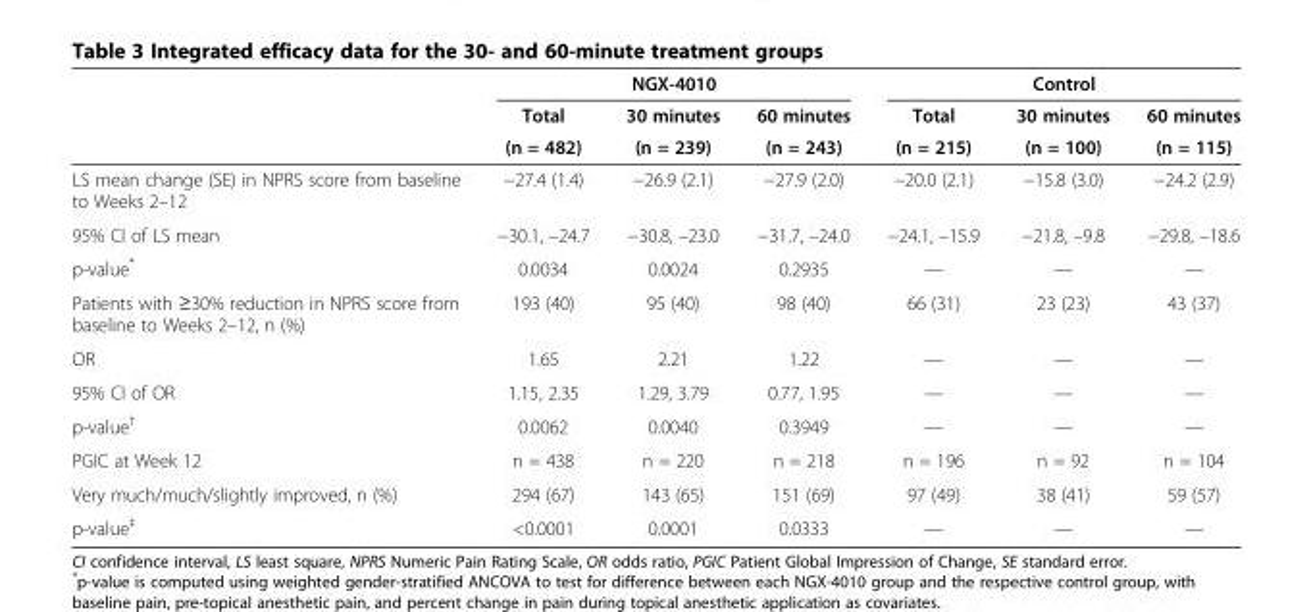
<table><thead><tr><td rowspan="3"></td><td colspan="3">NGX-4010</td><td colspan="3">Control</td></tr><tr><td rowspan="2">Total (n = 482)</td><td rowspan="2">30 minutes (n = 239)</td><td rowspan="2">60 minutes (n = 243)</td><td rowspan="2">Total (n = 215)</td><td rowspan="2">30 minutes (n = 100)</td><td rowspan="2">60 minutes (n = 115)</td></tr><tr></tr></thead><tbody><tr><td>LS mean change (SE) in NPRS score from baseline to Weeks 2–12</td><td>−27.4 (1.4)</td><td>−26.9 (2.1)</td><td>−27.9 (2.0)</td><td>−20.0 (2.1)</td><td>−15.8 (3.0)</td><td>−24.2 (2.9)</td></tr><tr><td>95% CI of LS mean</td><td>−30.1, –24.7</td><td>−30.8, –23.0</td><td>−31.7, –24.0</td><td>−24.1, –15.9</td><td>−21.8, –9.8</td><td>−29.8, –18.6</td></tr><tr><td>p-value*</td><td>0.0034</td><td>0.0024</td><td>0.2935</td><td>—</td><td>—</td><td>—</td></tr><tr><td>Patients with ≥30% reduction in NPRS score from baseline to Weeks 2–12, n (%)</td><td>193 (40)</td><td>95 (40)</td><td>98 (40)</td><td>66 (31)</td><td>23 (23)</td><td>43 (37)</td></tr><tr><td>OR</td><td>1.65</td><td>2.21</td><td>1.22</td><td>—</td><td>—</td><td>—</td></tr><tr><td>95% CI of OR</td><td>1.15, 2.35</td><td>1.29, 3.79</td><td>0.77, 1.95</td><td>—</td><td>—</td><td>—</td></tr><tr><td>p-value<sup>†</sup></td><td>0.0062</td><td>0.0040</td><td>0.3949</td><td>—</td><td>—</td><td>—</td></tr><tr><td>PGIC at Week 12</td><td>n = 438</td><td>n = 220</td><td>n = 218</td><td>n = 196</td><td>n = 92</td><td>n = 104</td></tr><tr><td>Very much/much/slightly improved, n (%)</td><td>294 (67)</td><td>143 (65)</td><td>151 (69)</td><td>97 (49)</td><td>38 (41)</td><td>59 (57)</td></tr><tr><td>p-value<sup>‡</sup></td><td>&lt;0.0001</td><td>0.0001</td><td>0.0333</td><td>—</td><td>—</td><td>—</td></tr></tbody></table>